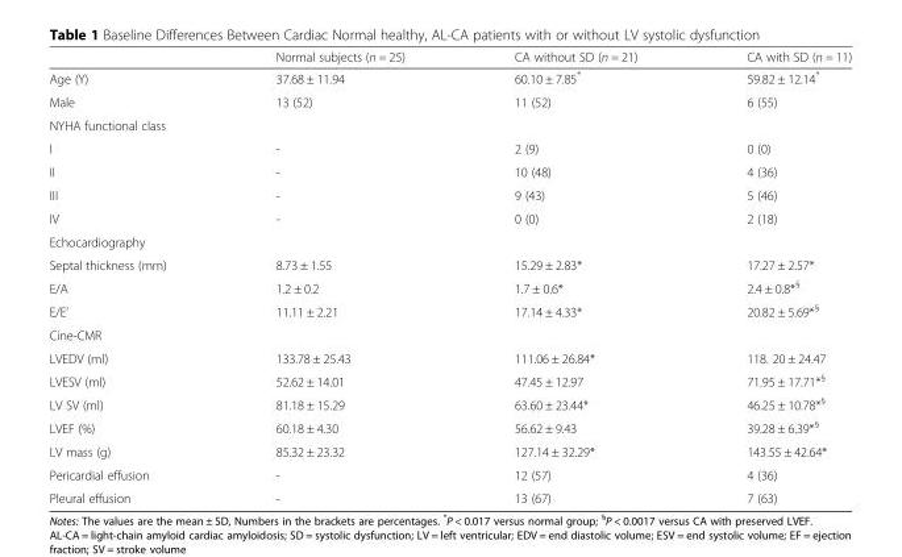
<table><thead><tr><td></td><td>Normal subjects (n = 25)</td><td>CA without SD (n = 21)</td><td>CA with SD (n = 11)</td></tr></thead><tbody><tr><td>Age (Y)</td><td>37.68 ± 11.94</td><td>60.10 ± 7.85*</td><td>59.82 ± 12.14*</td></tr><tr><td>Male</td><td>13 (52)</td><td>11 (52)</td><td>6 (55)</td></tr><tr><td colspan="4">NYHA functional class</td></tr><tr><td>I</td><td>-</td><td>2 (9)</td><td>0 (0)</td></tr><tr><td>II</td><td>-</td><td>10 (48)</td><td>4 (36)</td></tr><tr><td>III</td><td>-</td><td>9 (43)</td><td>5 (46)</td></tr><tr><td>IV</td><td>-</td><td>0 (0)</td><td>2 (18)</td></tr><tr><td colspan="4">Echocardiography</td></tr><tr><td>Septal thickness (mm)</td><td>8.73 ± 1.55</td><td>15.29 ± 2.83*</td><td>17.27 ± 2.57*</td></tr><tr><td>E/A</td><td>1.2 ± 0.2</td><td>1.7 ± 0.6*</td><td>2.4 ± 0.8*<sup>§</sup></td></tr><tr><td>E/E’</td><td>11.11 ± 2.21</td><td>17.14 ± 4.33*</td><td>20.82 ± 5.69*<sup>§</sup></td></tr><tr><td colspan="4">Cine-CMR</td></tr><tr><td>LVEDV (ml)</td><td>133.78 ± 25.43</td><td>111.06 ± 26.84*</td><td>118. 20 ± 24.47</td></tr><tr><td>LVESV (ml)</td><td>52.62 ± 14.01</td><td>47.45 ± 12.97</td><td>71.95 ± 17.71*<sup>§</sup></td></tr><tr><td>LV SV (ml)</td><td>81.18 ± 15.29</td><td>63.60 ± 23.44*</td><td>46.25 ± 10.78*<sup>§</sup></td></tr><tr><td>LVEF (%)</td><td>60.18 ± 4.30</td><td>56.62 ± 9.43</td><td>39.28 ± 6.39*<sup>§</sup></td></tr><tr><td>LV mass (g)</td><td>85.32 ± 23.32</td><td>127.14 ± 32.29*</td><td>143.55 ± 42.64*</td></tr><tr><td>Pericardial effusion</td><td>-</td><td>12 (57)</td><td>4 (36)</td></tr><tr><td>Pleural effusion</td><td>-</td><td>13 (67)</td><td>7 (63)</td></tr></tbody></table>